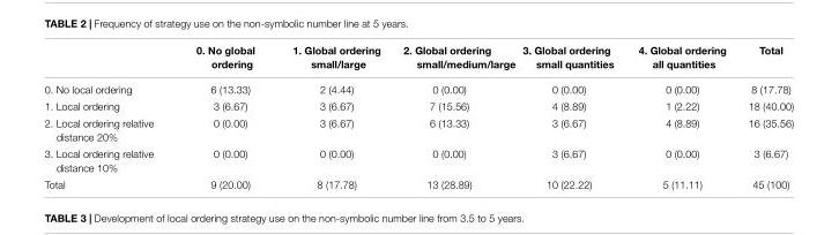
<table><thead><tr><td></td><td>0. No global ordering</td><td>1. Global ordering small/large</td><td>2. Global ordering small/medium/large</td><td>3. Global ordering small quantities</td><td>4. Global ordering all quantities</td><td>Total</td></tr></thead><tbody><tr><td>0. No local ordering</td><td>6 (13.33)</td><td>2 (4.44)</td><td>0 (0.00)</td><td>0 (0.00)</td><td>0 (0.00)</td><td>8 (17.78)</td></tr><tr><td>1. Local ordering</td><td>3 (6.67)</td><td>3 (6.67)</td><td>7 (15.56)</td><td>4 (8.89)</td><td>1 (2.22)</td><td>18 (40.00)</td></tr><tr><td>2. Local ordering relative distance 20%</td><td>0 (0.00)</td><td>3 (6.67)</td><td>6 (13.33)</td><td>3 (6.67)</td><td>4 (8.89)</td><td>16 (35.56)</td></tr><tr><td>3. Local ordering relative distance 10%</td><td>0 (0.00)</td><td>0 (0.00)</td><td>0 (0.00)</td><td>3 (6.67)</td><td>0 (0.00)</td><td>3 (6.67)</td></tr><tr><td>Total</td><td>9 (20.00)</td><td>8 (17.78)</td><td>13 (28.89)</td><td>10 (22.22)</td><td>5 (11.11)</td><td>45 (100)</td></tr></tbody></table>